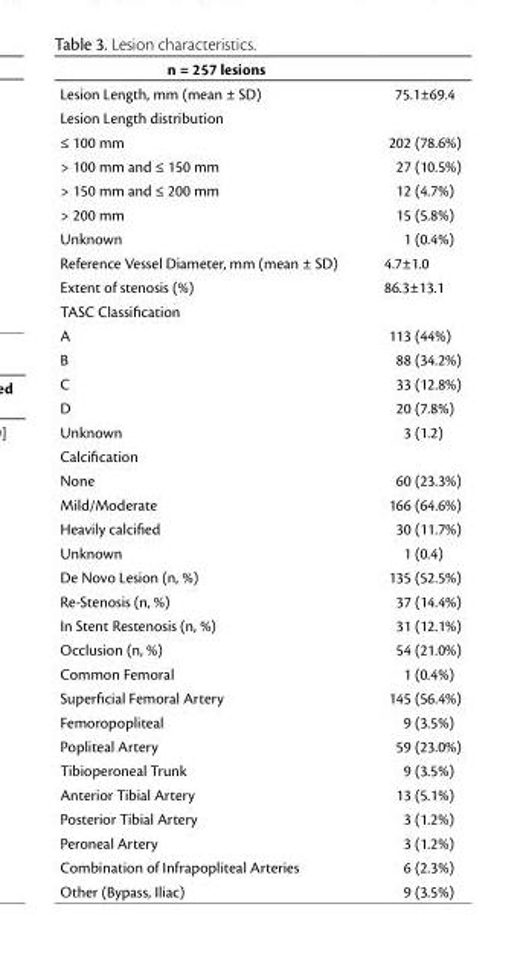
<table><thead><tr><td>n = 257 lesions</td><td></td></tr></thead><tbody><tr><td>Lesion Length, mm (mean ± SD)</td><td>75.1±69.4</td></tr><tr><td colspan="2">Lesion Length distribution</td></tr><tr><td>≤ 100 mm</td><td>202 (78.6%)</td></tr><tr><td>&gt; 100 mm and ≤ 150 mm</td><td>27 (10.5%)</td></tr><tr><td>&gt; 150 mm and ≤ 200 mm</td><td>12 (4.7%)</td></tr><tr><td>&gt; 200 mm</td><td>15 (5.8%)</td></tr><tr><td>Unknown</td><td>1 (0.4%)</td></tr><tr><td>Reference Vessel Diameter, mm (mean ± SD)</td><td>4.7±1.0</td></tr><tr><td>Extent of stenosis (%)</td><td>86.3±13.1</td></tr><tr><td colspan="2">TASC Classification</td></tr><tr><td>A</td><td>113 (44%)</td></tr><tr><td>B</td><td>88 (34.2%)</td></tr><tr><td>C</td><td>33 (12.8%)</td></tr><tr><td>D</td><td>20 (7.8%)</td></tr><tr><td>Unknown</td><td>3 (1.2)</td></tr><tr><td colspan="2">Calcification</td></tr><tr><td>None</td><td>60 (23.3%)</td></tr><tr><td>Mild/Moderate</td><td>166 (64.6%)</td></tr><tr><td>Heavily calcified</td><td>30 (11.7%)</td></tr><tr><td>Unknown</td><td>1 (0.4)</td></tr><tr><td>De Novo Lesion (n, %)</td><td>135 (52.5%)</td></tr><tr><td>Re-Stenosis (n, %)</td><td>37 (14.4%)</td></tr><tr><td>In Stent Restenosis (n, %)</td><td>31 (12.1%)</td></tr><tr><td>Occlusion (n, %)</td><td>54 (21.0%)</td></tr><tr><td>Common Femoral</td><td>1 (0.4%)</td></tr><tr><td>Superficial Femoral Artery</td><td>145 (56.4%)</td></tr><tr><td>Femoropopliteal</td><td>9 (3.5%)</td></tr><tr><td>Popliteal Artery</td><td>59 (23.0%)</td></tr><tr><td>Tibioperoneal Trunk</td><td>9 (3.5%)</td></tr><tr><td>Anterior Tibial Artery</td><td>13 (5.1%)</td></tr><tr><td>Posterior Tibial Artery</td><td>3 (1.2%)</td></tr><tr><td>Peroneal Artery</td><td>3 (1.2%)</td></tr><tr><td>Combination of Infrapopliteal Arteries</td><td>6 (2.3%)</td></tr><tr><td>Other (Bypass, Iliac)</td><td>9 (3.5%)</td></tr></tbody></table>